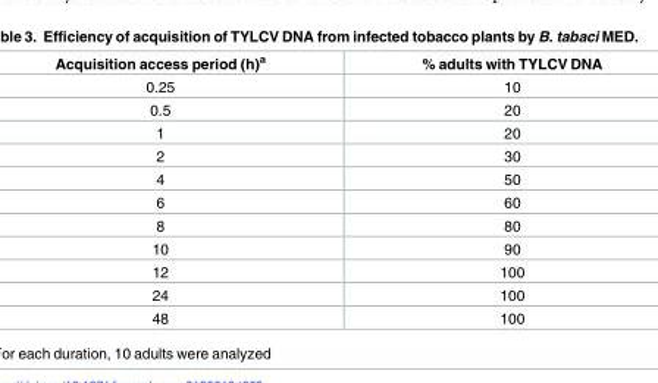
<table><thead><tr><td>Acquisition access period (h)<sup>a</sup></td><td>% adults with TYLCV DNA</td></tr></thead><tbody><tr><td>0.25</td><td>10</td></tr><tr><td>0.5</td><td>20</td></tr><tr><td>1</td><td>20</td></tr><tr><td>2</td><td>30</td></tr><tr><td>4</td><td>50</td></tr><tr><td>6</td><td>60</td></tr><tr><td>8</td><td>80</td></tr><tr><td>10</td><td>90</td></tr><tr><td>12</td><td>100</td></tr><tr><td>24</td><td>100</td></tr><tr><td>48</td><td>100</td></tr></tbody></table>